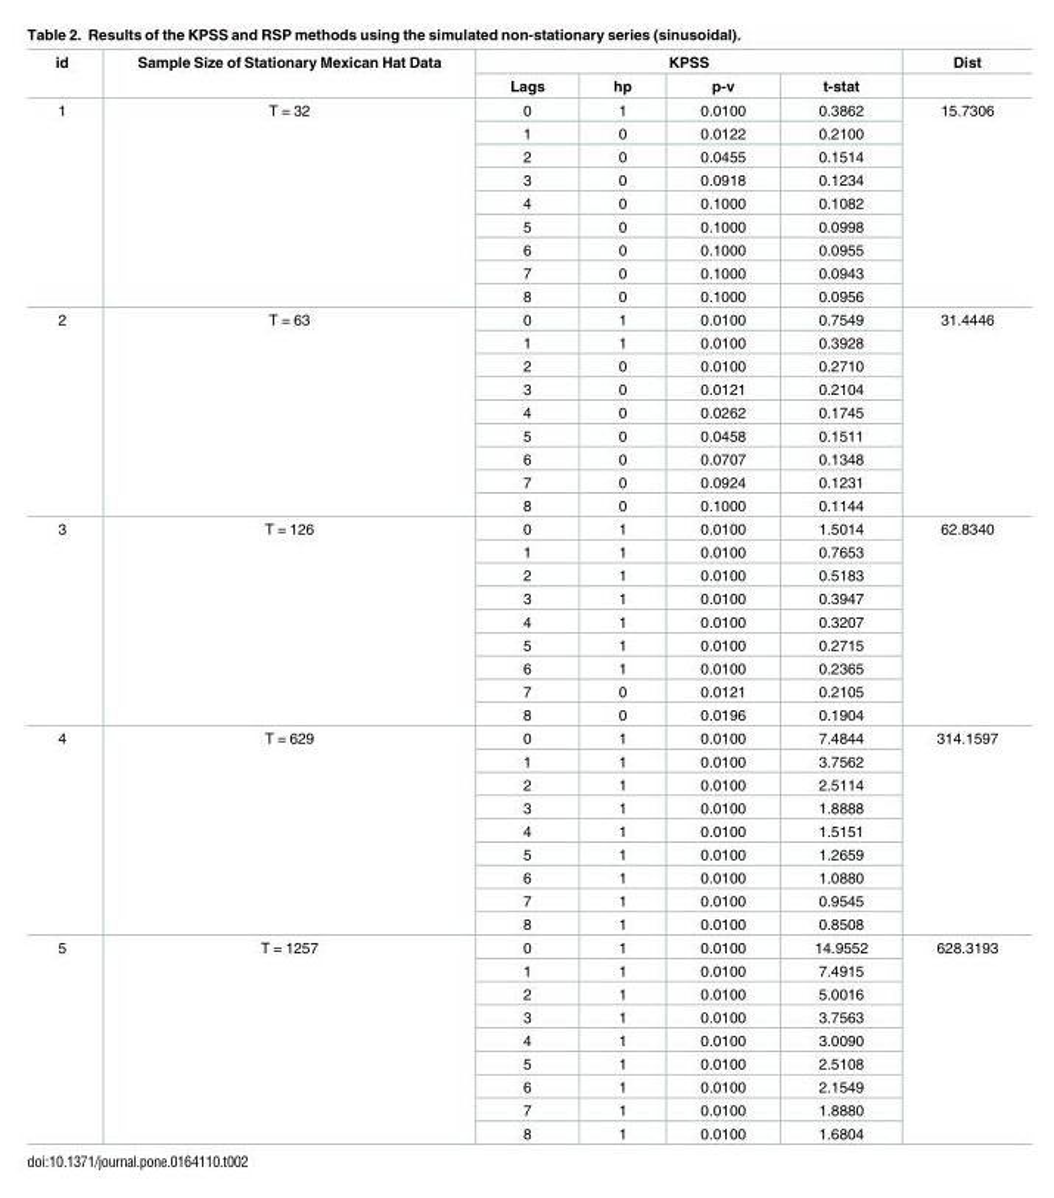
<table><thead><tr><td rowspan="2">id</td><td rowspan="2">Sample Size of Stationary Mexican Hat Data</td><td colspan="4">KPSS</td><td rowspan="2">Dist</td></tr><tr><td>Lags</td><td>hp</td><td>p-v</td><td>t-stat</td></tr></thead><tbody><tr><td rowspan="9">1</td><td rowspan="9">T = 32</td><td>0</td><td>1</td><td>0.0100</td><td>0.3862</td><td rowspan="9">15.7306</td></tr><tr><td>1</td><td>0</td><td>0.0122</td><td>0.2100</td></tr><tr><td>2</td><td>0</td><td>0.0455</td><td>0.1514</td></tr><tr><td>3</td><td>0</td><td>0.0918</td><td>0.1234</td></tr><tr><td>4</td><td>0</td><td>0.1000</td><td>0.1082</td></tr><tr><td>5</td><td>0</td><td>0.1000</td><td>0.0998</td></tr><tr><td>6</td><td>0</td><td>0.1000</td><td>0.0955</td></tr><tr><td>7</td><td>0</td><td>0.1000</td><td>0.0943</td></tr><tr><td>8</td><td>0</td><td>0.1000</td><td>0.0956</td></tr><tr><td rowspan="9">2</td><td rowspan="9">T = 63</td><td>0</td><td>1</td><td>0.0100</td><td>0.7549</td><td rowspan="9">31.4446</td></tr><tr><td>1</td><td>1</td><td>0.0100</td><td>0.3928</td></tr><tr><td>2</td><td>0</td><td>0.0100</td><td>0.2710</td></tr><tr><td>3</td><td>0</td><td>0.0121</td><td>0.2104</td></tr><tr><td>4</td><td>0</td><td>0.0262</td><td>0.1745</td></tr><tr><td>5</td><td>0</td><td>0.0458</td><td>0.1511</td></tr><tr><td>6</td><td>0</td><td>0.0707</td><td>0.1348</td></tr><tr><td>7</td><td>0</td><td>0.0924</td><td>0.1231</td></tr><tr><td>8</td><td>0</td><td>0.1000</td><td>0.1144</td></tr><tr><td rowspan="9">3</td><td rowspan="9">T = 126</td><td>0</td><td>1</td><td>0.0100</td><td>1.5014</td><td rowspan="9">62.8340</td></tr><tr><td>1</td><td>1</td><td>0.0100</td><td>0.7653</td></tr><tr><td>2</td><td>1</td><td>0.0100</td><td>0.5183</td></tr><tr><td>3</td><td>1</td><td>0.0100</td><td>0.3947</td></tr><tr><td>4</td><td>1</td><td>0.0100</td><td>0.3207</td></tr><tr><td>5</td><td>1</td><td>0.0100</td><td>0.2715</td></tr><tr><td>6</td><td>1</td><td>0.0100</td><td>0.2365</td></tr><tr><td>7</td><td>0</td><td>0.0121</td><td>0.2105</td></tr><tr><td>8</td><td>0</td><td>0.0196</td><td>0.1904</td></tr><tr><td rowspan="9">4</td><td rowspan="9">T = 629</td><td>0</td><td>1</td><td>0.0100</td><td>7.4844</td><td rowspan="9">314.1597</td></tr><tr><td>1</td><td>1</td><td>0.0100</td><td>3.7562</td></tr><tr><td>2</td><td>1</td><td>0.0100</td><td>2.5114</td></tr><tr><td>3</td><td>1</td><td>0.0100</td><td>1.8888</td></tr><tr><td>4</td><td>1</td><td>0.0100</td><td>1.5151</td></tr><tr><td>5</td><td>1</td><td>0.0100</td><td>1.2659</td></tr><tr><td>6</td><td>1</td><td>0.0100</td><td>1.0880</td></tr><tr><td>7</td><td>1</td><td>0.0100</td><td>0.9545</td></tr><tr><td>8</td><td>1</td><td>0.0100</td><td>0.8508</td></tr><tr><td rowspan="9">5</td><td rowspan="9">T = 1257</td><td>0</td><td>1</td><td>0.0100</td><td>14.9552</td><td rowspan="9">628.3193</td></tr><tr><td>1</td><td>1</td><td>0.0100</td><td>7.4915</td></tr><tr><td>2</td><td>1</td><td>0.0100</td><td>5.0016</td></tr><tr><td>3</td><td>1</td><td>0.0100</td><td>3.7563</td></tr><tr><td>4</td><td>1</td><td>0.0100</td><td>3.0090</td></tr><tr><td>5</td><td>1</td><td>0.0100</td><td>2.5108</td></tr><tr><td>6</td><td>1</td><td>0.0100</td><td>2.1549</td></tr><tr><td>7</td><td>1</td><td>0.0100</td><td>1.8880</td></tr><tr><td>8</td><td>1</td><td>0.0100</td><td>1.6804</td></tr></tbody></table>